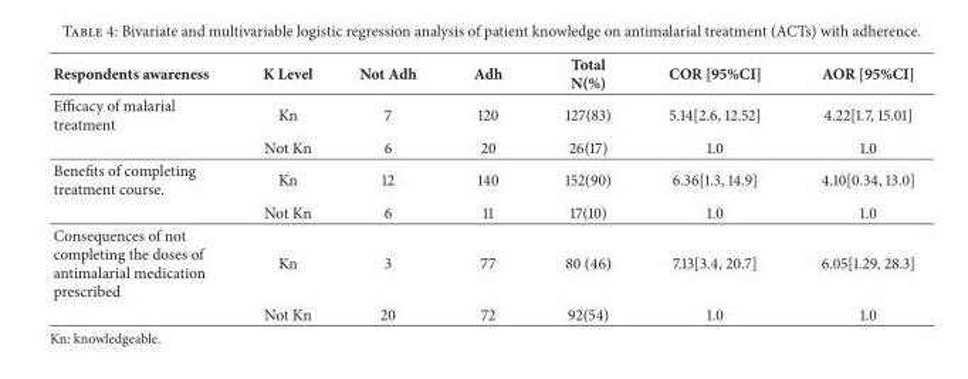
<table><thead><tr><td>Respondents awareness</td><td>K Level</td><td>Not Adh</td><td>Adh</td><td>Total N(%)</td><td>COR [95%CI]</td><td>AOR [95%CI]</td></tr></thead><tbody><tr><td rowspan="2">Efficacy of malarial treatment</td><td>Kn</td><td>7</td><td>120</td><td>127(83)</td><td>5.14[2.6, 12.52]</td><td>4.22[1.7, 15.01]</td></tr><tr><td>Not Kn</td><td>6</td><td>20</td><td>26(17)</td><td>1.0</td><td>1.0</td></tr><tr><td rowspan="2">Benefits of completing treatment course.</td><td>Kn</td><td>12</td><td>140</td><td>152(90)</td><td>6.36[1.3, 14.9]</td><td>4.10[0.34, 13.0]</td></tr><tr><td>Not Kn</td><td>6</td><td>11</td><td>17(10)</td><td>1.0</td><td>1.0</td></tr><tr><td rowspan="2">Consequences of not completing the doses of antimalarial medication prescribed</td><td>Kn</td><td>3</td><td>77</td><td>80 (46)</td><td>7.13[3.4, 20.7]</td><td>6.05[1.29, 28.3]</td></tr><tr><td>Not Kn</td><td>20</td><td>72</td><td>92(54)</td><td>1.0</td><td>1.0</td></tr></tbody></table>